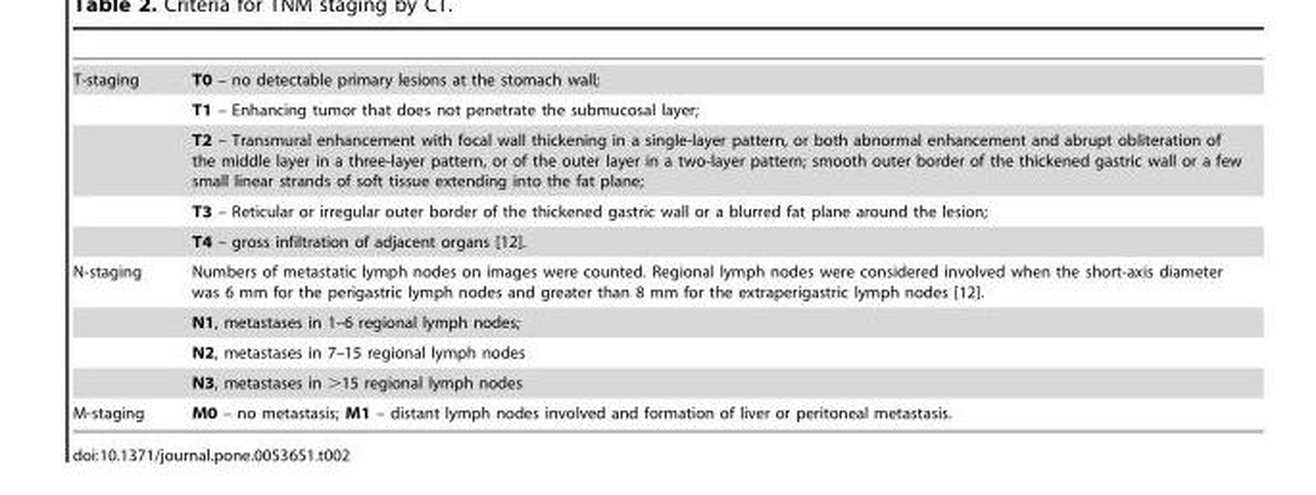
<table><tbody><tr><td rowspan="5">T-staging</td><td>T0 – no detectable primary lesions at the stomach wall;</td></tr><tr><td>T1 – Enhancing tumor that does not penetrate the submucosal layer;</td></tr><tr><td>T2 – Transmural enhancement with focal wall thickening in a single-layer pattern, or both abnormal enhancement and abrupt obliteration of the middle layer in a three-layer pattern, or of the outer layer in a two-layer pattern; smooth outer border of the thickened gastric wall or a few small linear strands of soft tissue extending into the fat plane;</td></tr><tr><td>T3 – Reticular or irregular outer border of the thickened gastric wall or a blurred fat plane around the lesion;</td></tr><tr><td>T4 – gross infiltration of adjacent organs [12].</td></tr><tr><td rowspan="4">N-staging</td><td>Numbers of metastatic lymph nodes on images were counted. Regional lymph nodes were considered involved when the short-axis diameter was 6 mm for the perigastric lymph nodes and greater than 8 mm for the extraperigastric lymph nodes [12].</td></tr><tr><td>N1, metastases in 1–6 regional lymph nodes;</td></tr><tr><td>N2, metastases in 7–15 regional lymph nodes</td></tr><tr><td>N3, metastases in &gt;15 regional lymph nodes</td></tr><tr><td>M-staging</td><td>M0 – no metastasis; M1 – distant lymph nodes involved and formation of liver or peritoneal metastasis.</td></tr></tbody></table>